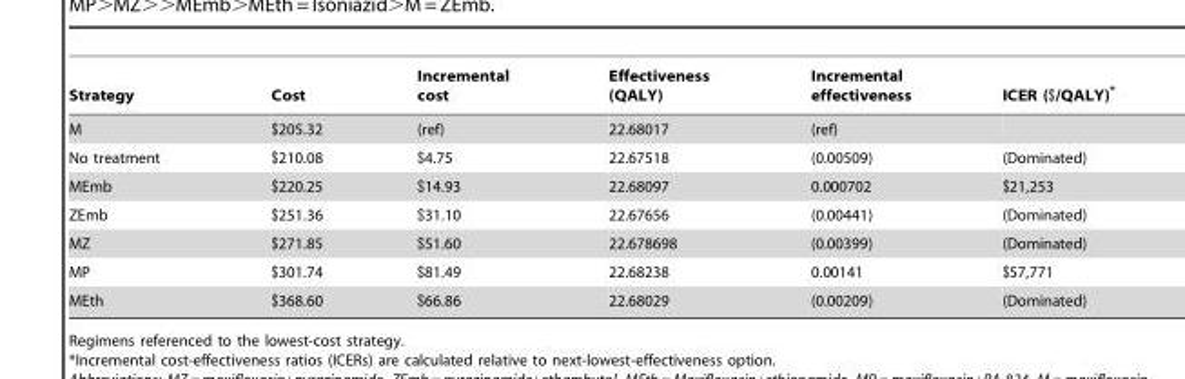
<table><thead><tr><td>Strategy</td><td>Cost</td><td>Incremental cost</td><td>Effectiveness (QALY)</td><td>Incremental effectiveness</td><td>ICER ($/QALY)*</td></tr></thead><tbody><tr><td>M</td><td>$205.32</td><td>(ref)</td><td>22.68017</td><td>(ref)</td><td></td></tr><tr><td>No treatment</td><td>$210.08</td><td>$4.75</td><td>22.67518</td><td>(0.00509)</td><td>(Dominated)</td></tr><tr><td>MEmb</td><td>$220.25</td><td>$14.93</td><td>22.68097</td><td>0.000702</td><td>$21,253</td></tr><tr><td>ZEmb</td><td>$251.36</td><td>$31.10</td><td>22.67656</td><td>(0.00441)</td><td>(Dominated)</td></tr><tr><td>MZ</td><td>$271.85</td><td>$51.60</td><td>22.678698</td><td>(0.00399)</td><td>(Dominated)</td></tr><tr><td>MP</td><td>$301.74</td><td>$81.49</td><td>22.68238</td><td>0.00141</td><td>$57,771</td></tr><tr><td>MEth</td><td>$368.60</td><td>$66.86</td><td>22.68029</td><td>(0.00209)</td><td>(Dominated)</td></tr></tbody></table>